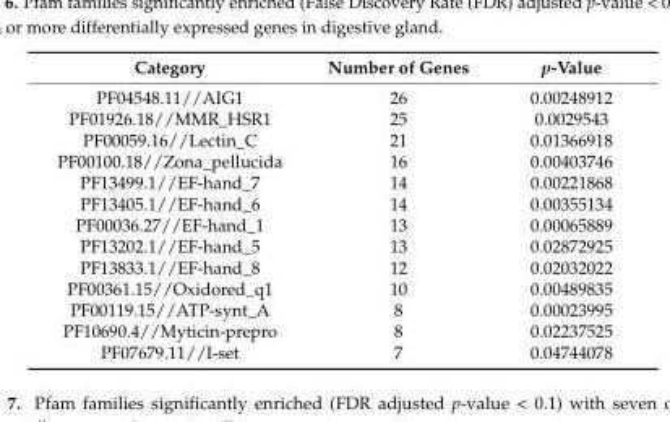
<table><thead><tr><td>Category</td><td>Number of Genes</td><td>p-Value</td></tr></thead><tbody><tr><td>PF04548.11//AIG1</td><td>26</td><td>0.00248912</td></tr><tr><td>PF01926.18//MMR_HSR1</td><td>25</td><td>0.0029543</td></tr><tr><td>PF00059.16//Lectin_C</td><td>21</td><td>0.01366918</td></tr><tr><td>PF00100.18//Zona_pellucida</td><td>16</td><td>0.00403746</td></tr><tr><td>PF13499.1//EF-hand_7</td><td>14</td><td>0.00221868</td></tr><tr><td>PF13405.1//EF-hand_6</td><td>14</td><td>0.00355134</td></tr><tr><td>PF00036.27//EF-hand_1</td><td>13</td><td>0.00065889</td></tr><tr><td>PF13202.1//EF-hand_5</td><td>13</td><td>0.02872925</td></tr><tr><td>PF13833.1//EF-hand_8</td><td>12</td><td>0.02032022</td></tr><tr><td>PF00361.15//Oxidored_q1</td><td>10</td><td>0.00489835</td></tr><tr><td>PF00119.15//ATP-synt_A</td><td>8</td><td>0.00023995</td></tr><tr><td>PF10690.4//Myticin-prepro</td><td>8</td><td>0.02237525</td></tr><tr><td>PF07679.11//I-set</td><td>7</td><td>0.04744078</td></tr></tbody></table>